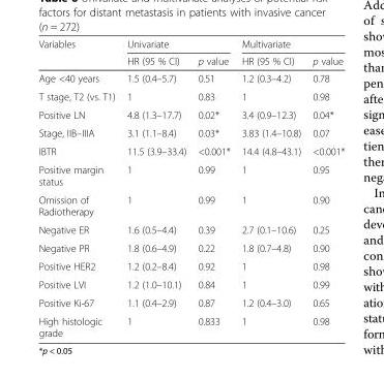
<table><thead><tr><td rowspan="2">Variables</td><td colspan="2">Univariate</td><td colspan="2">Multivariate</td></tr><tr><td>HR (95 % CI)</td><td>p value</td><td>HR (95 % CI)</td><td>p value</td></tr></thead><tbody><tr><td>Age &lt;40 years</td><td>1.5 (0.4–5.7)</td><td>0.51</td><td>1.2 (0.3–4.2)</td><td>0.78</td></tr><tr><td>T stage, T2 (vs. T1)</td><td>1</td><td>0.83</td><td>1</td><td>0.98</td></tr><tr><td>Positive LN</td><td>4.8 (1.3–17.7)</td><td>0.02*</td><td>3.4 (0.9–12.3)</td><td>0.04*</td></tr><tr><td>Stage, IIB–IIIA</td><td>3.1 (1.1–8.4)</td><td>0.03*</td><td>3.83 (1.4–10.8)</td><td>0.07</td></tr><tr><td>IBTR</td><td>11.5 (3.9–33.4)</td><td>&lt;0.001*</td><td>14.4 (4.8–43.1)</td><td>&lt;0.001*</td></tr><tr><td>Positive margin status</td><td>1</td><td>0.99</td><td>1</td><td>0.95</td></tr><tr><td>Omission of Radiotherapy</td><td>1</td><td>0.99</td><td>1</td><td>0.90</td></tr><tr><td>Negative ER</td><td>1.6 (0.5–4.4)</td><td>0.39</td><td>2.7 (0.1–10.6)</td><td>0.25</td></tr><tr><td>Negative PR</td><td>1.8 (0.6–4.9)</td><td>0.22</td><td>1.8 (0.7–4.8)</td><td>0.90</td></tr><tr><td>Positive HER2</td><td>1.2 (0.2–8.4)</td><td>0.92</td><td>1</td><td>0.98</td></tr><tr><td>Positive LVI</td><td>1.2 (1.0–10.1)</td><td>0.84</td><td>1</td><td>0.99</td></tr><tr><td>Positive Ki-67</td><td>1.1 (0.4–2.9)</td><td>0.87</td><td>1.2 (0.4–3.0)</td><td>0.65</td></tr><tr><td>High histologic grade</td><td>1</td><td>0.833</td><td>1</td><td>0.98</td></tr></tbody></table>